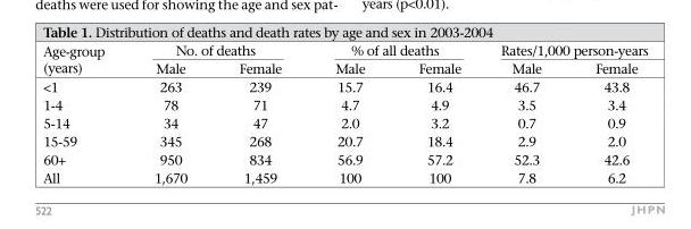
<table><thead><tr><td rowspan="2">Age-group (years)</td><td colspan="2">No. of deaths</td><td colspan="2">% of all deaths</td><td colspan="2">Rates/1,000 person-years</td></tr><tr><td>Male</td><td>Female</td><td>Male</td><td>Female</td><td>Male</td><td>Female</td></tr></thead><tbody><tr><td>&lt;1</td><td>263</td><td>239</td><td>15.7</td><td>16.4</td><td>46.7</td><td>43.8</td></tr><tr><td>1-4</td><td>78</td><td>71</td><td>4.7</td><td>4.9</td><td>3.5</td><td>3.4</td></tr><tr><td>5-14</td><td>34</td><td>47</td><td>2.0</td><td>3.2</td><td>0.7</td><td>0.9</td></tr><tr><td>15-59</td><td>345</td><td>268</td><td>20.7</td><td>18.4</td><td>2.9</td><td>2.0</td></tr><tr><td>60+</td><td>950</td><td>834</td><td>56.9</td><td>57.2</td><td>52.3</td><td>42.6</td></tr><tr><td>All</td><td>1,670</td><td>1,459</td><td>100</td><td>100</td><td>7.8</td><td>6.2</td></tr></tbody></table>